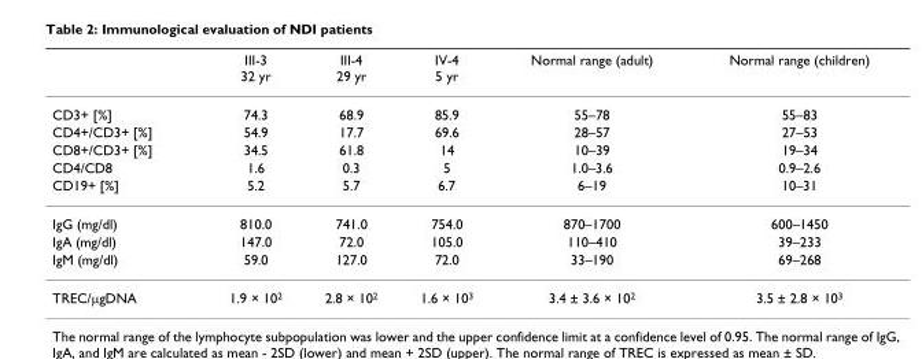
<table><thead><tr><td></td><td>III-3 32 yr</td><td>III-4 29 yr</td><td>IV-4 5 yr</td><td>Normal range (adult)</td><td>Normal range (children)</td></tr></thead><tbody><tr><td>CD3+ [%]</td><td>74.3</td><td>68.9</td><td>85.9</td><td>55–78</td><td>55–83</td></tr><tr><td>CD4+/CD3+ [%]</td><td>54.9</td><td>17.7</td><td>69.6</td><td>28–57</td><td>27–53</td></tr><tr><td>CD8+/CD3+ [%]</td><td>34.5</td><td>61.8</td><td>14</td><td>10–39</td><td>19–34</td></tr><tr><td>CD4/CD8</td><td>1.6</td><td>0.3</td><td>5</td><td>1.0–3.6</td><td>0.9–2.6</td></tr><tr><td>CD19+ [%]</td><td>5.2</td><td>5.7</td><td>6.7</td><td>6–19</td><td>10–31</td></tr><tr><td>IgG (mg/dl)</td><td>810.0</td><td>741.0</td><td>754.0</td><td>870–1700</td><td>600–1450</td></tr><tr><td>IgA (mg/dl)</td><td>147.0</td><td>72.0</td><td>105.0</td><td>110–410</td><td>39–233</td></tr><tr><td>IgM (mg/dl)</td><td>59.0</td><td>127.0</td><td>72.0</td><td>33–190</td><td>69–268</td></tr><tr><td>TREC/µgDNA</td><td>1.9 × 10<sup>2</sup></td><td>2.8 × 10<sup>2</sup></td><td>1.6 × 10<sup>3</sup></td><td>3.4 ± 3.6 × 10<sup>2</sup></td><td>3.5 ± 2.8 × 10<sup>3</sup></td></tr></tbody></table>